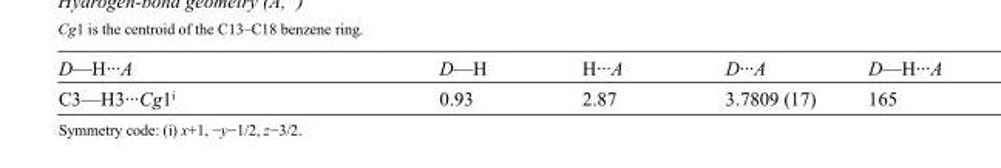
<table><tbody><tr><td>D—H···A</td><td>D—H</td><td>H···A</td><td>D···A</td><td>D—H···A</td></tr><tr><td>C3—H3···Cg1<sup>i</sup></td><td>0.93</td><td>2.87</td><td>3.7809 (17)</td><td>165</td></tr></tbody></table>